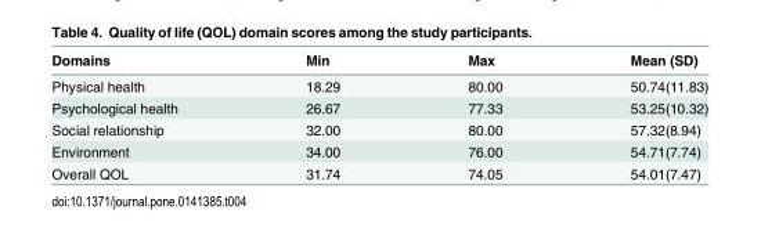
<table><thead><tr><td>Domains</td><td>Min</td><td>Max</td><td>Mean (SD)</td></tr></thead><tbody><tr><td>Physical health</td><td>18.29</td><td>80.00</td><td>50.74(11.83)</td></tr><tr><td>Psychological health</td><td>26.67</td><td>77.33</td><td>53.25(10.32)</td></tr><tr><td>Social relationship</td><td>32.00</td><td>80.00</td><td>57.32(8.94)</td></tr><tr><td>Environment</td><td>34.00</td><td>76.00</td><td>54.71(7.74)</td></tr><tr><td>Overall QOL</td><td>31.74</td><td>74.05</td><td>54.01(7.47)</td></tr></tbody></table>